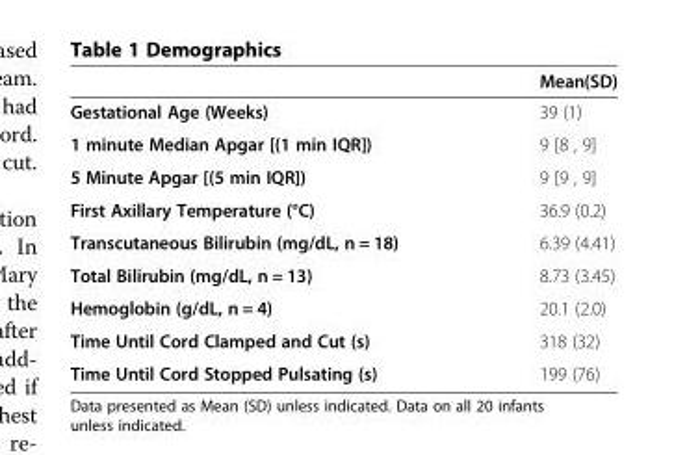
<table><thead><tr><td></td><td>Mean(SD)</td></tr></thead><tbody><tr><td>Gestational Age (Weeks)</td><td>39 (1)</td></tr><tr><td>1 minute Median Apgar [(1 min IQR])</td><td>9 [8 , 9]</td></tr><tr><td>5 Minute Apgar [(5 min IQR])</td><td>9 [9 , 9]</td></tr><tr><td>First Axillary Temperature (°C)</td><td>36.9 (0.2)</td></tr><tr><td>Transcutaneous Bilirubin (mg/dL, n = 18)</td><td>6.39 (4.41)</td></tr><tr><td>Total Bilirubin (mg/dL, n = 13)</td><td>8.73 (3.45)</td></tr><tr><td>Hemoglobin (g/dL, n = 4)</td><td>20.1 (2.0)</td></tr><tr><td>Time Until Cord Clamped and Cut (s)</td><td>318 (32)</td></tr><tr><td>Time Until Cord Stopped Pulsating (s)</td><td>199 (76)</td></tr></tbody></table>